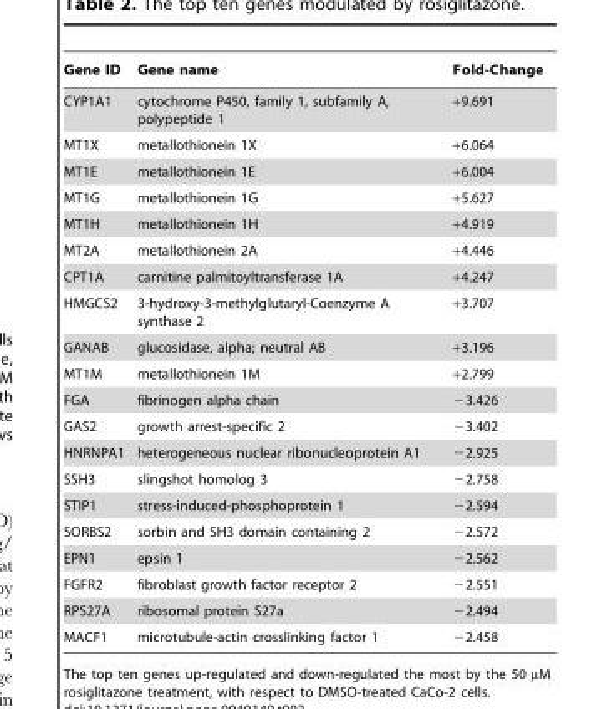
<table><thead><tr><td>Gene ID</td><td>Gene name</td><td>Fold-Change</td></tr></thead><tbody><tr><td>CYP1A1</td><td>cytochrome P450, family 1, subfamily A, polypeptide 1</td><td>+9.691</td></tr><tr><td>MT1X</td><td>metallothionein 1X</td><td>+6.064</td></tr><tr><td>MT1E</td><td>metallothionein 1E</td><td>+6.004</td></tr><tr><td>MT1G</td><td>metallothionein 1G</td><td>+5.627</td></tr><tr><td>MT1H</td><td>metallothionein 1H</td><td>+4.919</td></tr><tr><td>MT2A</td><td>metallothionein 2A</td><td>+4.446</td></tr><tr><td>CPT1A</td><td>carnitine palmitoyltransferase 1A</td><td>+4.247</td></tr><tr><td>HMGCS2</td><td>3-hydroxy-3-methylglutaryl-Coenzyme A synthase 2</td><td>+3.707</td></tr><tr><td>GANAB</td><td>glucosidase, alpha; neutral AB</td><td>+3.196</td></tr><tr><td>MT1M</td><td>metallothionein 1M</td><td>+2.799</td></tr><tr><td>FGA</td><td>fibrinogen alpha chain</td><td>−3.426</td></tr><tr><td>GAS2</td><td>growth arrest-specific 2</td><td>−3.402</td></tr><tr><td>HNRNPA1</td><td>heterogeneous nuclear ribonucleoprotein A1</td><td>−2.925</td></tr><tr><td>SSH3</td><td>slingshot homolog 3</td><td>−2.758</td></tr><tr><td>STIP1</td><td>stress-induced-phosphoprotein 1</td><td>−2.594</td></tr><tr><td>SORBS2</td><td>sorbin and SH3 domain containing 2</td><td>−2.572</td></tr><tr><td>EPN1</td><td>epsin 1</td><td>−2.562</td></tr><tr><td>FGFR2</td><td>fibroblast growth factor receptor 2</td><td>−2.551</td></tr><tr><td>RPS27A</td><td>ribosomal protein S27a</td><td>−2.494</td></tr><tr><td>MACF1</td><td>microtubule-actin crosslinking factor 1</td><td>−2.458</td></tr></tbody></table>